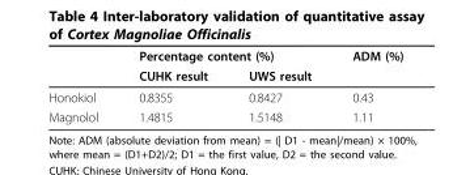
<table><thead><tr><td rowspan="2"></td><td colspan="2">Percentage content (%)</td><td rowspan="2">ADM (%)</td></tr><tr><td>CUHK result</td><td>UWS result</td></tr></thead><tbody><tr><td>Honokiol</td><td>0.8355</td><td>0.8427</td><td>0.43</td></tr><tr><td>Magnolol</td><td>1.4815</td><td>1.5148</td><td>1.11</td></tr></tbody></table>